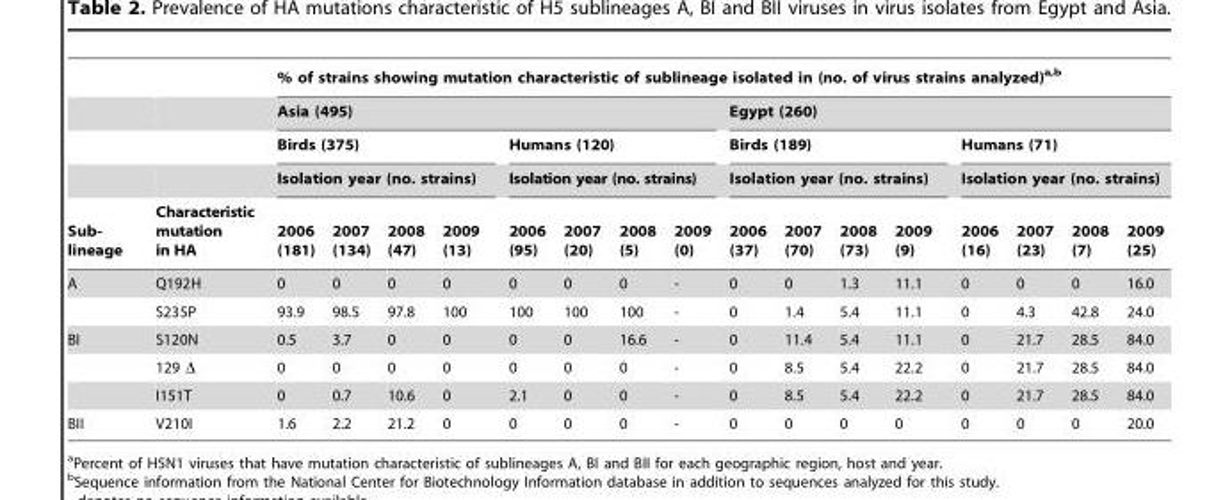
<table><thead><tr><td rowspan="5">Sub- lineage</td><td rowspan="5">Characteristic mutation in HA</td><td colspan="16">% of strains showing mutation characteristic of sublineage isolated in (no. of virus strains analyzed)<sup>a,</sup>b</td></tr><tr><td colspan="8">Asia (495)</td><td colspan="8">Egypt (260)</td></tr><tr><td rowspan="2" colspan="4">Birds (375) Isolation year (no. strains)</td><td rowspan="2" colspan="4">Humans (120) Isolation year (no. strains)</td><td rowspan="2" colspan="4">Birds (189) Isolation year (no. strains)</td><td rowspan="2" colspan="4">Humans (71) Isolation year (no. strains)</td></tr><tr></tr><tr><td>2006 (181)</td><td>2007 (134)</td><td>2008 (47)</td><td>2009 (13)</td><td>2006 (95)</td><td>2007 (20)</td><td>2008 (5)</td><td>2009 (0)</td><td>2006 (37)</td><td>2007 (70)</td><td>2008 (73)</td><td>2009 (9)</td><td>2006 (16)</td><td>2007 (23)</td><td>2008 (7)</td><td>2009 (25)</td></tr></thead><tbody><tr><td rowspan="2">A</td><td>Q192H</td><td>0</td><td>0</td><td>0</td><td>0</td><td>0</td><td>0</td><td>0</td><td>-</td><td>0</td><td>0</td><td>1.3</td><td>11.1</td><td>0</td><td>0</td><td>0</td><td>16.0</td></tr><tr><td>S235P</td><td>93.9</td><td>98.5</td><td>97.8</td><td>100</td><td>100</td><td>100</td><td>100</td><td>-</td><td>0</td><td>1.4</td><td>5.4</td><td>11.1</td><td>0</td><td>4.3</td><td>42.8</td><td>24.0</td></tr><tr><td rowspan="3">BI</td><td>S120N</td><td>0.5</td><td>3.7</td><td>0</td><td>0</td><td>0</td><td>0</td><td>16.6</td><td>-</td><td>0</td><td>11.4</td><td>5.4</td><td>11.1</td><td>0</td><td>21.7</td><td>28.5</td><td>84.0</td></tr><tr><td>129 Δ</td><td>0</td><td>0</td><td>0</td><td>0</td><td>0</td><td>0</td><td>0</td><td>-</td><td>0</td><td>8.5</td><td>5.4</td><td>22.2</td><td>0</td><td>21.7</td><td>28.5</td><td>84.0</td></tr><tr><td>I151T</td><td>0</td><td>0.7</td><td>10.6</td><td>0</td><td>2.1</td><td>0</td><td>0</td><td>-</td><td>0</td><td>8.5</td><td>5.4</td><td>22.2</td><td>0</td><td>21.7</td><td>28.5</td><td>84.0</td></tr><tr><td>BII</td><td>V210I</td><td>1.6</td><td>2.2</td><td>21.2</td><td>0</td><td>0</td><td>0</td><td>0</td><td>-</td><td>0</td><td>0</td><td>0</td><td>0</td><td>0</td><td>0</td><td>0</td><td>20.0</td></tr></tbody></table>